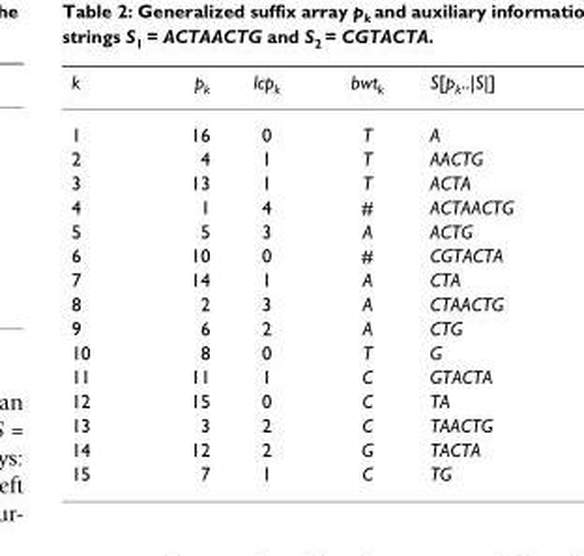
<table><thead><tr><td>k</td><td>p<sub>k</sub></td><td>lcp<sub>k</sub></td><td>bwt<sub>k</sub></td><td>S[p<sub>k</sub>..|S|]</td></tr></thead><tbody><tr><td>1</td><td>16</td><td>0</td><td>T</td><td>A</td></tr><tr><td>2</td><td>4</td><td>1</td><td>T</td><td>AACTG</td></tr><tr><td>3</td><td>13</td><td>1</td><td>T</td><td>ACTA</td></tr><tr><td>4</td><td>1</td><td>4</td><td>#</td><td>ACTAACTG</td></tr><tr><td>5</td><td>5</td><td>3</td><td>A</td><td>ACTG</td></tr><tr><td>6</td><td>10</td><td>0</td><td>#</td><td>CGTACTA</td></tr><tr><td>7</td><td>14</td><td>1</td><td>A</td><td>CTA</td></tr><tr><td>8</td><td>2</td><td>3</td><td>A</td><td>CTAACTG</td></tr><tr><td>9</td><td>6</td><td>2</td><td>A</td><td>CTG</td></tr><tr><td>10</td><td>8</td><td>0</td><td>T</td><td>G</td></tr><tr><td>11</td><td>11</td><td>1</td><td>C</td><td>GTACTA</td></tr><tr><td>12</td><td>15</td><td>0</td><td>C</td><td>TA</td></tr><tr><td>13</td><td>3</td><td>2</td><td>C</td><td>TAACTG</td></tr><tr><td>14</td><td>12</td><td>2</td><td>G</td><td>TACTA</td></tr><tr><td>15</td><td>7</td><td>1</td><td>C</td><td>TG</td></tr></tbody></table>